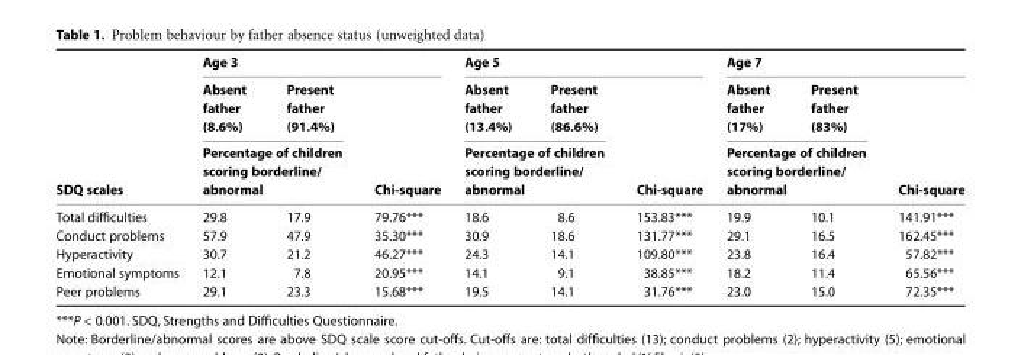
<table><thead><tr><td rowspan="4">SDQ scales</td><td colspan="3">Age 3</td><td colspan="3">Age 5</td><td colspan="3">Age 7</td></tr><tr><td rowspan="2">Absent father (8.6%)</td><td rowspan="2">Present father (91.4%)</td><td rowspan="3">Chi-square</td><td rowspan="2">Absent father (13.4%)</td><td rowspan="2">Present father (86.6%)</td><td rowspan="3">Chi-square</td><td rowspan="2">Absent father (17%)</td><td rowspan="2">Present father (83%)</td><td rowspan="3">Chi-square</td></tr><tr></tr><tr><td colspan="2">Percentage of children scoring borderline/ abnormal</td><td colspan="2">Percentage of children scoring borderline/ abnormal</td><td colspan="2">Percentage of children scoring borderline/ abnormal</td></tr></thead><tbody><tr><td>Total difficulties</td><td>29.8</td><td>17.9</td><td>79.76***</td><td>18.6</td><td>8.6</td><td>153.83***</td><td>19.9</td><td>10.1</td><td>141.91***</td></tr><tr><td>Conduct problems</td><td>57.9</td><td>47.9</td><td>35.30***</td><td>30.9</td><td>18.6</td><td>131.77***</td><td>29.1</td><td>16.5</td><td>162.45***</td></tr><tr><td>Hyperactivity</td><td>30.7</td><td>21.2</td><td>46.27***</td><td>24.3</td><td>14.1</td><td>109.80***</td><td>23.8</td><td>16.4</td><td>57.82***</td></tr><tr><td>Emotional symptoms</td><td>12.1</td><td>7.8</td><td>20.95***</td><td>14.1</td><td>9.1</td><td>38.85***</td><td>18.2</td><td>11.4</td><td>65.56***</td></tr><tr><td>Peer problems</td><td>29.1</td><td>23.3</td><td>15.68***</td><td>19.5</td><td>14.1</td><td>31.76***</td><td>23.0</td><td>15.0</td><td>72.35***</td></tr></tbody></table>